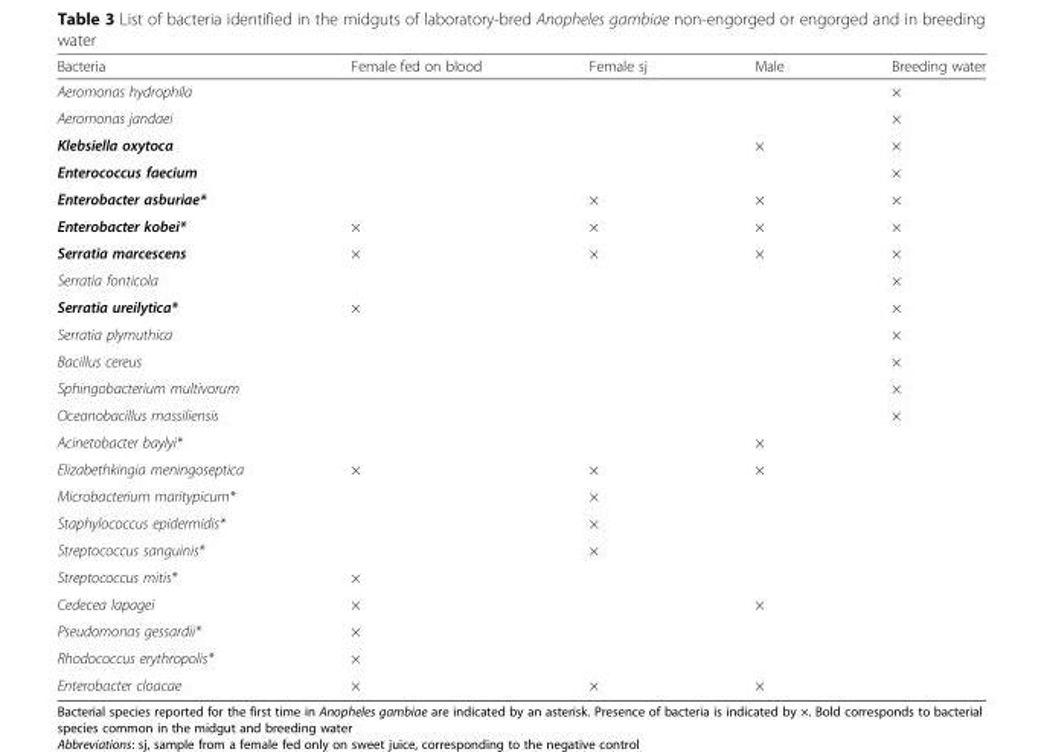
<table><thead><tr><td>Bacteria</td><td>Female fed on blood</td><td>Female sj</td><td>Male</td><td>Breeding water</td></tr></thead><tbody><tr><td>Aeromonas hydrophila</td><td></td><td></td><td></td><td>×</td></tr><tr><td>Aeromonas jandaei</td><td></td><td></td><td></td><td>×</td></tr><tr><td>Klebsiella oxytoca</td><td></td><td></td><td>×</td><td>×</td></tr><tr><td>Enterococcus faecium</td><td></td><td></td><td></td><td>×</td></tr><tr><td>Enterobacter asburiae*</td><td></td><td>×</td><td>×</td><td>×</td></tr><tr><td>Enterobacter kobei*</td><td>×</td><td>×</td><td>×</td><td>×</td></tr><tr><td>Serratia marcescens</td><td>×</td><td>×</td><td>×</td><td>×</td></tr><tr><td>Serratia fonticola</td><td></td><td></td><td></td><td>×</td></tr><tr><td>Serratia ureilytica*</td><td>×</td><td></td><td></td><td>×</td></tr><tr><td>Serratia plymuthica</td><td></td><td></td><td></td><td>×</td></tr><tr><td>Bacillus cereus</td><td></td><td></td><td></td><td>×</td></tr><tr><td>Sphingobacterium multivorum</td><td></td><td></td><td></td><td>×</td></tr><tr><td>Oceanobacillus massiliensis</td><td></td><td></td><td></td><td>×</td></tr><tr><td>Acinetobacter baylyi*</td><td></td><td></td><td>×</td><td></td></tr><tr><td>Elizabethkingia meningoseptica</td><td>×</td><td>×</td><td>×</td><td></td></tr><tr><td>Microbacterium maritypicum*</td><td></td><td>×</td><td></td><td></td></tr><tr><td>Staphylococcus epidermidis*</td><td></td><td>×</td><td></td><td></td></tr><tr><td>Streptococcus sanguinis*</td><td></td><td>×</td><td></td><td></td></tr><tr><td>Streptococcus mitis*</td><td>×</td><td></td><td></td><td></td></tr><tr><td>Cedecea lapagei</td><td>×</td><td></td><td>×</td><td></td></tr><tr><td>Pseudomonas gessardii*</td><td>×</td><td></td><td></td><td></td></tr><tr><td>Rhodococcus erythropolis*</td><td>×</td><td></td><td></td><td></td></tr><tr><td>Enterobacter cloacae</td><td>×</td><td>×</td><td>×</td><td></td></tr></tbody></table>